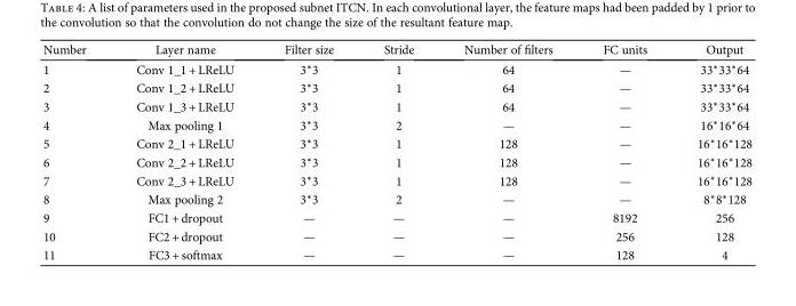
<table><thead><tr><td>Number</td><td>Layer name</td><td>Filter size</td><td>Stride</td><td>Number of filters</td><td>FC units</td><td>Output</td></tr></thead><tbody><tr><td>1</td><td>Conv 1_1 + LReLU</td><td>3∗3</td><td>1</td><td>64</td><td>—</td><td>33∗33∗64</td></tr><tr><td>2</td><td>Conv 1_2 + LReLU</td><td>3∗3</td><td>1</td><td>64</td><td>—</td><td>33∗33∗64</td></tr><tr><td>3</td><td>Conv 1_3 + LReLU</td><td>3∗3</td><td>1</td><td>64</td><td>—</td><td>33∗33∗64</td></tr><tr><td>4</td><td>Max pooling 1</td><td>3∗3</td><td>2</td><td>—</td><td>—</td><td>16∗16∗64</td></tr><tr><td>5</td><td>Conv 2_1 + LReLU</td><td>3∗3</td><td>1</td><td>128</td><td>—</td><td>16∗16∗128</td></tr><tr><td>6</td><td>Conv 2_2 + LReLU</td><td>3∗3</td><td>1</td><td>128</td><td>—</td><td>16∗16∗128</td></tr><tr><td>7</td><td>Conv 2_3 + LReLU</td><td>3∗3</td><td>1</td><td>128</td><td>—</td><td>16∗16∗128</td></tr><tr><td>8</td><td>Max pooling 2</td><td>3∗3</td><td>2</td><td>—</td><td>—</td><td>8∗8∗128</td></tr><tr><td>9</td><td>FC1 + dropout</td><td>—</td><td>—</td><td>—</td><td>8192</td><td>256</td></tr><tr><td>10</td><td>FC2 + dropout</td><td>—</td><td>—</td><td>—</td><td>256</td><td>128</td></tr><tr><td>11</td><td>FC3 + softmax</td><td>—</td><td>—</td><td>—</td><td>128</td><td>4</td></tr></tbody></table>